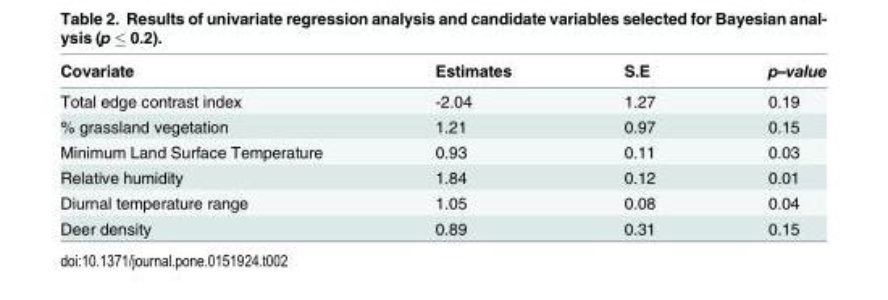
<table><thead><tr><td>Covariate</td><td>Estimates</td><td>S.E</td><td>p–value</td></tr></thead><tbody><tr><td>Total edge contrast index</td><td>-2.04</td><td>1.27</td><td>0.19</td></tr><tr><td>% grassland vegetation</td><td>1.21</td><td>0.97</td><td>0.15</td></tr><tr><td>Minimum Land Surface Temperature</td><td>0.93</td><td>0.11</td><td>0.03</td></tr><tr><td>Relative humidity</td><td>1.84</td><td>0.12</td><td>0.01</td></tr><tr><td>Diurnal temperature range</td><td>1.05</td><td>0.08</td><td>0.04</td></tr><tr><td>Deer density</td><td>0.89</td><td>0.31</td><td>0.15</td></tr></tbody></table>